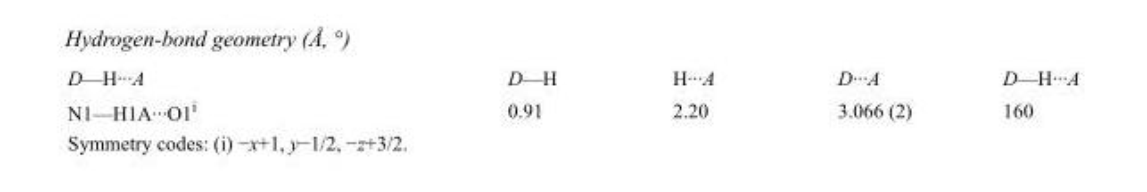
<table><tbody><tr><td>D—H···A</td><td>D—H</td><td>H···A</td><td>D···A</td><td>D—H···A</td></tr><tr><td>N1—H1A···O1<sup>i</sup></td><td>0.91</td><td>2.20</td><td>3.066 (2)</td><td>160</td></tr></tbody></table>